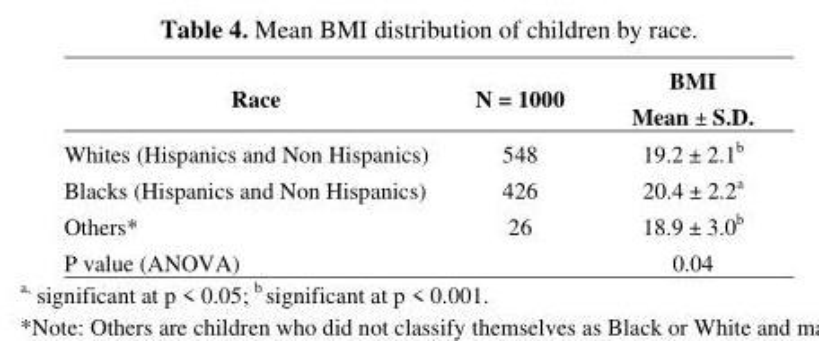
<table><thead><tr><td>Race</td><td>N = 1000</td><td>BMI Mean ± S.D.</td></tr></thead><tbody><tr><td>Whites (Hispanics and Non Hispanics)</td><td>548</td><td>19.2 ± 2.1<sup>b</sup></td></tr><tr><td>Blacks (Hispanics and Non Hispanics)</td><td>426</td><td>20.4 ± 2.2<sup>a</sup></td></tr><tr><td>Others*</td><td>26</td><td>18.9 ± 3.0<sup>b</sup></td></tr><tr><td>P value (ANOVA)</td><td></td><td>0.04</td></tr></tbody></table>